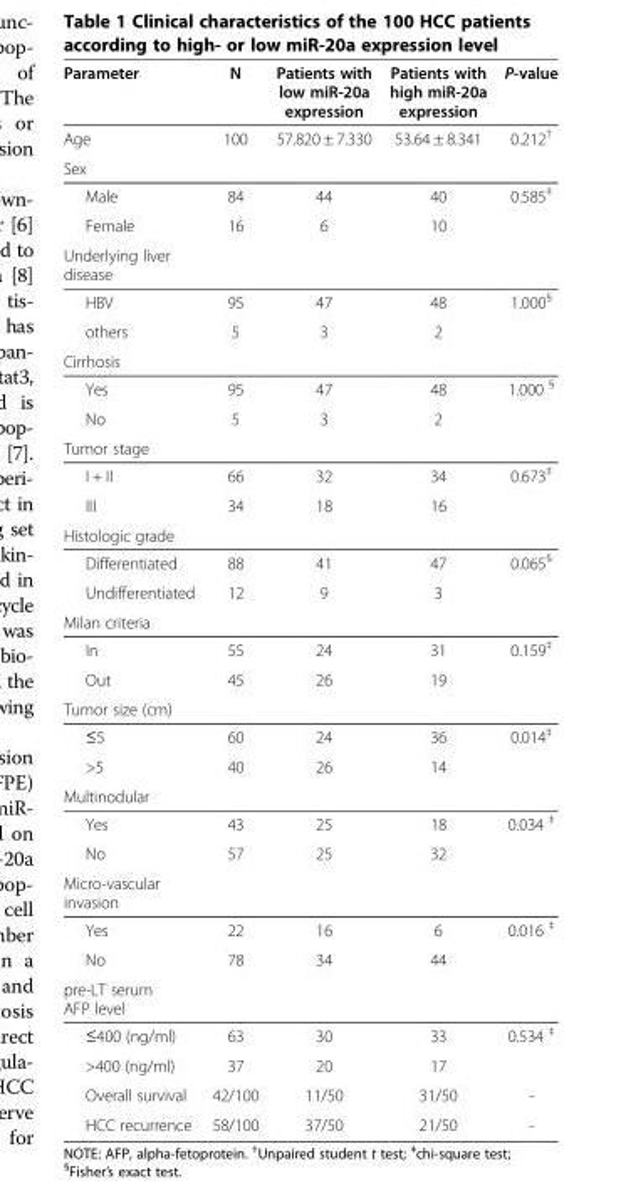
<table><thead><tr><td>Parameter</td><td>N</td><td>Patients with low miR-20a expression</td><td>Patients with high miR-20a expression</td><td>P-value</td></tr></thead><tbody><tr><td>Age</td><td>100</td><td>57.820 ± 7.330</td><td>53.64 ± 8.341</td><td>0.212<sup>†</sup></td></tr><tr><td colspan="5">Sex</td></tr><tr><td>Male</td><td>84</td><td>44</td><td>40</td><td>0.585<sup>‡</sup></td></tr><tr><td>Female</td><td>16</td><td>6</td><td>10</td><td></td></tr><tr><td colspan="5">Underlying liver disease</td></tr><tr><td>HBV</td><td>95</td><td>47</td><td>48</td><td>1.000<sup>§</sup></td></tr><tr><td>others</td><td>5</td><td>3</td><td>2</td><td></td></tr><tr><td colspan="5">Cirrhosis</td></tr><tr><td>Yes</td><td>95</td><td>47</td><td>48</td><td>1.000 <sup>§</sup></td></tr><tr><td>No</td><td>5</td><td>3</td><td>2</td><td></td></tr><tr><td colspan="5">Tumor stage</td></tr><tr><td>I + II</td><td>66</td><td>32</td><td>34</td><td>0.673<sup>‡</sup></td></tr><tr><td>III</td><td>34</td><td>18</td><td>16</td><td></td></tr><tr><td colspan="5">Histologic grade</td></tr><tr><td>Differentiated</td><td>88</td><td>41</td><td>47</td><td>0.065<sup>§</sup></td></tr><tr><td>Undifferentiated</td><td>12</td><td>9</td><td>3</td><td></td></tr><tr><td colspan="5">Milan criteria</td></tr><tr><td>In</td><td>55</td><td>24</td><td>31</td><td>0.159<sup>‡</sup></td></tr><tr><td>Out</td><td>45</td><td>26</td><td>19</td><td></td></tr><tr><td colspan="5">Tumor size (cm)</td></tr><tr><td>≤5</td><td>60</td><td>24</td><td>36</td><td>0.014<sup>‡</sup></td></tr><tr><td>&gt;5</td><td>40</td><td>26</td><td>14</td><td></td></tr><tr><td colspan="5">Multinodular</td></tr><tr><td>Yes</td><td>43</td><td>25</td><td>18</td><td>0.034 <sup>‡</sup></td></tr><tr><td>No</td><td>57</td><td>25</td><td>32</td><td></td></tr><tr><td colspan="5">Micro-vascular invasion</td></tr><tr><td>Yes</td><td>22</td><td>16</td><td>6</td><td>0.016 <sup>‡</sup></td></tr><tr><td>No</td><td>78</td><td>34</td><td>44</td><td></td></tr><tr><td colspan="5">pre-LT serum AFP level</td></tr><tr><td>≤400 (ng/ml)</td><td>63</td><td>30</td><td>33</td><td>0.534 <sup>‡</sup></td></tr><tr><td>&gt;400 (ng/ml)</td><td>37</td><td>20</td><td>17</td><td></td></tr><tr><td>Overall survival</td><td>42/100</td><td>11/50</td><td>31/50</td><td>-</td></tr><tr><td>HCC recurrence</td><td>58/100</td><td>37/50</td><td>21/50</td><td>-</td></tr></tbody></table>